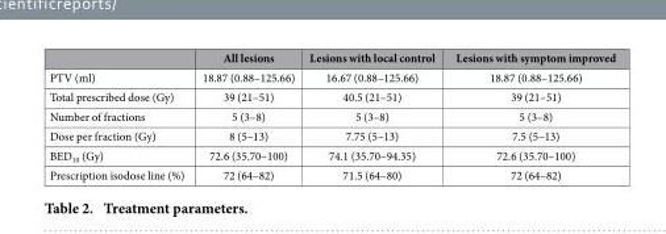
<table><thead><tr><td></td><td>All lesions</td><td>Lesions with local control</td><td>Lesions with symptom improved</td></tr></thead><tbody><tr><td>PTV (ml)</td><td>18.87 (0.88–125.66)</td><td>16.67 (0.88–125.66)</td><td>18.87 (0.88–125.66)</td></tr><tr><td>Total prescribed dose (Gy)</td><td>39 (21–51)</td><td>40.5 (21–51)</td><td>39 (21–51)</td></tr><tr><td>Number of fractions</td><td>5 (3–8)</td><td>5 (3–8)</td><td>5 (3–8)</td></tr><tr><td>Dose per fraction (Gy)</td><td>8 (5–13)</td><td>7.75 (5–13)</td><td>7.5 (5–13)</td></tr><tr><td>BED<sub>10</sub> (Gy)</td><td>72.6 (35.70–100)</td><td>74.1 (35.70–94.35)</td><td>72.6 (35.70–100)</td></tr><tr><td>Prescription isodose line (%)</td><td>72 (64–82)</td><td>71.5 (64–80)</td><td>72 (64–82)</td></tr></tbody></table>